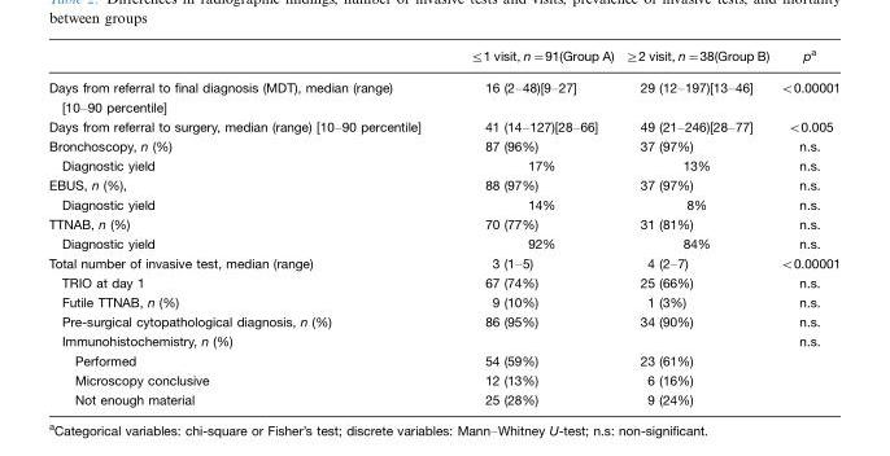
<table><thead><tr><td></td><td>≤1 visit, n=91(Group A)</td><td>≥2 visit, n=38(Group B)</td><td>p<sup>a</sup></td></tr></thead><tbody><tr><td>Days from referral to final diagnosis (MDT), median (range) [10–90 percentile]</td><td>16 (2–48)[9–27]</td><td>29 (12–197)[13–46]</td><td>&lt;0.00001</td></tr><tr><td>Days from referral to surgery, median (range) [10–90 percentile]</td><td>41 (14–127)[28–66]</td><td>49 (21–246)[28–77]</td><td>&lt;0.005</td></tr><tr><td>Bronchoscopy, n (%)</td><td>87 (96%)</td><td>37 (97%)</td><td>n.s.</td></tr><tr><td>Diagnostic yield</td><td>17%</td><td>13%</td><td>n.s.</td></tr><tr><td>EBUS, n (%),</td><td>88 (97%)</td><td>37 (97%)</td><td>n.s.</td></tr><tr><td>Diagnostic yield</td><td>14%</td><td>8%</td><td>n.s.</td></tr><tr><td>TTNAB, n (%)</td><td>70 (77%)</td><td>31 (81%)</td><td>n.s.</td></tr><tr><td>Diagnostic yield</td><td>92%</td><td>84%</td><td>n.s.</td></tr><tr><td>Total number of invasive test, median (range)</td><td>3 (1–5)</td><td>4 (2–7)</td><td>&lt;0.00001</td></tr><tr><td>TRIO at day 1</td><td>67 (74%)</td><td>25 (66%)</td><td>n.s.</td></tr><tr><td>Futile TTNAB, n (%)</td><td>9 (10%)</td><td>1 (3%)</td><td>n.s.</td></tr><tr><td>Pre-surgical cytopathological diagnosis, n (%)</td><td>86 (95%)</td><td>34 (90%)</td><td>n.s.</td></tr><tr><td>Immunohistochemistry, n (%)</td><td></td><td></td><td>n.s.</td></tr><tr><td>Performed</td><td>54 (59%)</td><td>23 (61%)</td><td></td></tr><tr><td>Microscopy conclusive</td><td>12 (13%)</td><td>6 (16%)</td><td></td></tr><tr><td>Not enough material</td><td>25 (28%)</td><td>9 (24%)</td><td></td></tr></tbody></table>